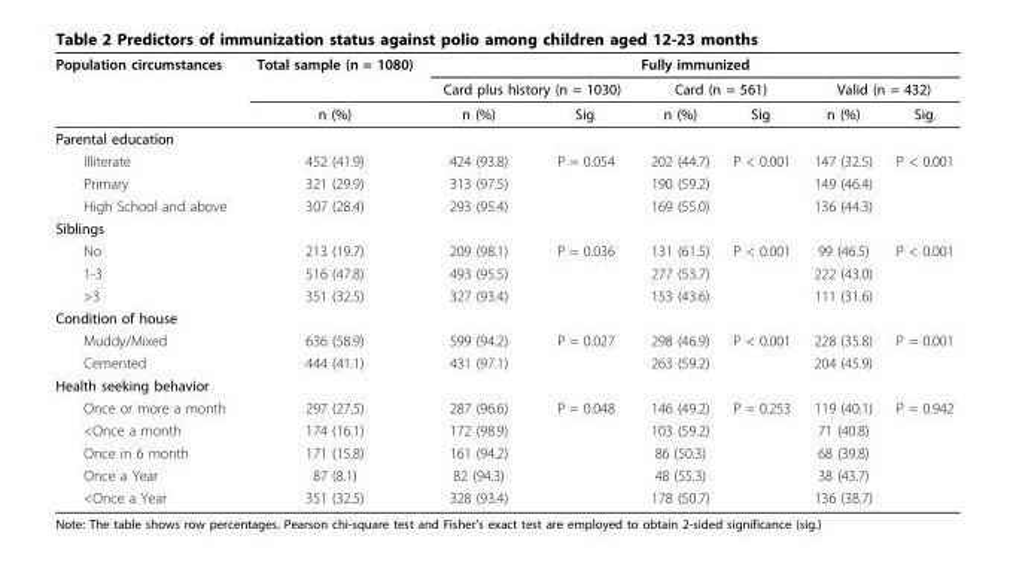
<table><thead><tr><td rowspan="3">Population circumstances</td><td rowspan="3">Total sample (n = 1080) n (%)</td><td colspan="6">Fully immunized</td></tr><tr><td colspan="2">Card plus history (n = 1030)</td><td colspan="2">Card (n = 561)</td><td colspan="2">Valid (n = 432)</td></tr><tr><td>n (%)</td><td>Sig.</td><td>n (%)</td><td>Sig.</td><td>n (%)</td><td>Sig.</td></tr></thead><tbody><tr><td colspan="8">Parental education</td></tr><tr><td>Illiterate</td><td>452 (41.9)</td><td>424 (93.8)</td><td>P = 0.054</td><td>202 (44.7)</td><td>P &lt; 0.001</td><td>147 (32.5)</td><td>P &lt; 0.001</td></tr><tr><td>Primary</td><td>321 (29.9)</td><td>313 (97.5)</td><td></td><td>190 (59.2)</td><td></td><td>149 (46.4)</td><td></td></tr><tr><td>High School and above</td><td>307 (28.4)</td><td>293 (95.4)</td><td></td><td>169 (55.0)</td><td></td><td>136 (44.3)</td><td></td></tr><tr><td colspan="8">Siblings</td></tr><tr><td>No</td><td>213 (19.7)</td><td>209 (98.1)</td><td>P = 0.036</td><td>131 (61.5)</td><td>P &lt; 0.001</td><td>99 (46.5)</td><td>P &lt; 0.001</td></tr><tr><td>1-3</td><td>516 (47.8)</td><td>493 (95.5)</td><td></td><td>277 (53.7)</td><td></td><td>222 (43.0)</td><td></td></tr><tr><td>&gt;3</td><td>351 (32.5)</td><td>327 (93.4)</td><td></td><td>153 (43.6)</td><td></td><td>111 (31.6)</td><td></td></tr><tr><td colspan="8">Condition of house</td></tr><tr><td>Muddy/Mixed</td><td>636 (58.9)</td><td>599 (94.2)</td><td>P = 0.027</td><td>298 (46.9)</td><td>P &lt; 0.001</td><td>228 (35.8)</td><td>P = 0.001</td></tr><tr><td>Cemented</td><td>444 (41.1)</td><td>431 (97.1)</td><td></td><td>263 (59.2)</td><td></td><td>204 (45.9)</td><td></td></tr><tr><td colspan="8">Health seeking behavior</td></tr><tr><td>Once or more a month</td><td>297 (27.5)</td><td>287 (96.6)</td><td>P = 0.048</td><td>146 (49.2)</td><td>P = 0.253</td><td>119 (40.1)</td><td>P = 0.942</td></tr><tr><td>&lt;Once a month</td><td>174 (16.1)</td><td>172 (98.9)</td><td></td><td>103 (59.2)</td><td></td><td>71 (40.8)</td><td></td></tr><tr><td>Once in 6 month</td><td>171 (15.8)</td><td>161 (94.2)</td><td></td><td>86 (50.3)</td><td></td><td>68 (39.8)</td><td></td></tr><tr><td>Once a Year</td><td>87 (8.1)</td><td>82 (94.3)</td><td></td><td>48 (55.3)</td><td></td><td>38 (43.7)</td><td></td></tr><tr><td>&lt;Once a Year</td><td>351 (32.5)</td><td>328 (93.4)</td><td></td><td>178 (50.7)</td><td></td><td>136 (38.7)</td><td></td></tr></tbody></table>